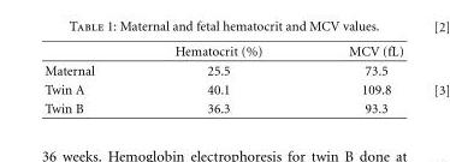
<table><thead><tr><td></td><td>Hematocrit (%)</td><td>MCV (fL)</td></tr></thead><tbody><tr><td>Maternal</td><td>25.5</td><td>73.5</td></tr><tr><td>Twin A</td><td>40.1</td><td>109.8</td></tr><tr><td>Twin B</td><td>36.3</td><td>93.3</td></tr></tbody></table>